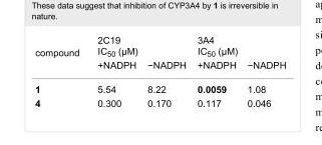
<table><tbody><tr><td rowspan="2">compound</td><td colspan="2">2C19 IC<sub>50</sub> (μM)</td><td colspan="2">3A4 IC<sub>50</sub> (μM)</td></tr><tr><td>+NADPH</td><td>−NADPH</td><td>+NADPH</td><td>−NADPH</td></tr><tr><td>1</td><td>5.54</td><td>8.22</td><td>0.0059</td><td>1.08</td></tr><tr><td>4</td><td>0.300</td><td>0.170</td><td>0.117</td><td>0.046</td></tr></tbody></table>